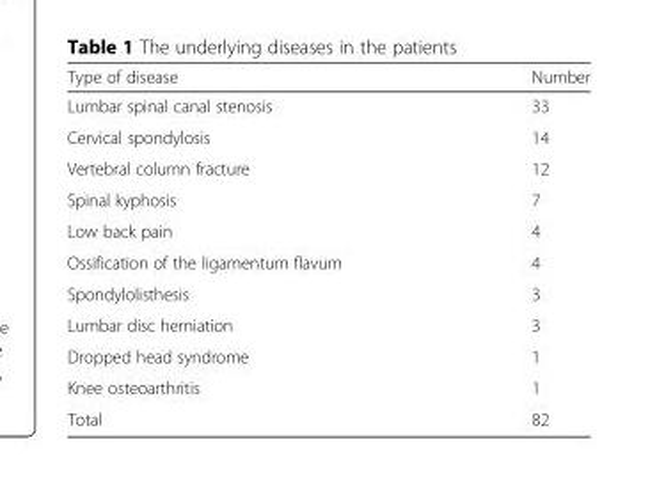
<table><thead><tr><td>Type of disease</td><td>Number</td></tr></thead><tbody><tr><td>Lumbar spinal canal stenosis</td><td>33</td></tr><tr><td>Cervical spondylosis</td><td>14</td></tr><tr><td>Vertebral column fracture</td><td>12</td></tr><tr><td>Spinal kyphosis</td><td>7</td></tr><tr><td>Low back pain</td><td>4</td></tr><tr><td>Ossification of the ligamentum flavum</td><td>4</td></tr><tr><td>Spondylolisthesis</td><td>3</td></tr><tr><td>Lumbar disc herniation</td><td>3</td></tr><tr><td>Dropped head syndrome</td><td>1</td></tr><tr><td>Knee osteoarthritis</td><td>1</td></tr><tr><td>Total</td><td>82</td></tr></tbody></table>